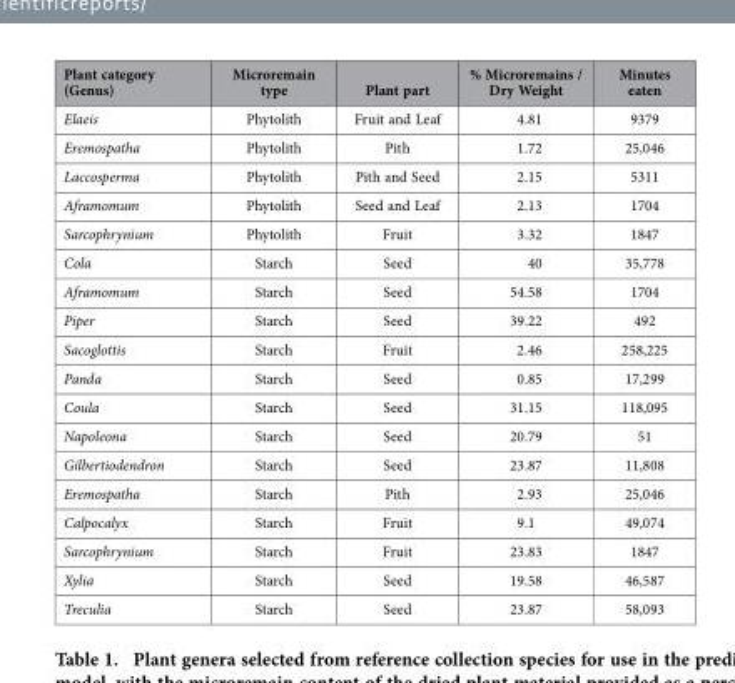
<table><thead><tr><td>Plant category (Genus)</td><td>Microremain type</td><td>Plant part</td><td>% Microremains / Dry Weight</td><td>Minutes eaten</td></tr></thead><tbody><tr><td>Elaeis</td><td>Phytolith</td><td>Fruit and Leaf</td><td>4.81</td><td>9379</td></tr><tr><td>Eremospatha</td><td>Phytolith</td><td>Pith</td><td>1.72</td><td>25,046</td></tr><tr><td>Laccosperma</td><td>Phytolith</td><td>Pith and Seed</td><td>2.15</td><td>5311</td></tr><tr><td>Aframomum</td><td>Phytolith</td><td>Seed and Leaf</td><td>2.13</td><td>1704</td></tr><tr><td>Sarcophrynium</td><td>Phytolith</td><td>Fruit</td><td>3.32</td><td>1847</td></tr><tr><td>Cola</td><td>Starch</td><td>Seed</td><td>40</td><td>35,778</td></tr><tr><td>Aframomum</td><td>Starch</td><td>Seed</td><td>54.58</td><td>1704</td></tr><tr><td>Piper</td><td>Starch</td><td>Seed</td><td>39.22</td><td>492</td></tr><tr><td>Sacoglottis</td><td>Starch</td><td>Fruit</td><td>2.46</td><td>258,225</td></tr><tr><td>Panda</td><td>Starch</td><td>Seed</td><td>0.85</td><td>17,299</td></tr><tr><td>Coula</td><td>Starch</td><td>Seed</td><td>31.15</td><td>118,095</td></tr><tr><td>Napoleona</td><td>Starch</td><td>Seed</td><td>20.79</td><td>51</td></tr><tr><td>Gilbertiodendron</td><td>Starch</td><td>Seed</td><td>23.87</td><td>11,808</td></tr><tr><td>Eremospatha</td><td>Starch</td><td>Pith</td><td>2.93</td><td>25,046</td></tr><tr><td>Calpocalyx</td><td>Starch</td><td>Fruit</td><td>9.1</td><td>49,074</td></tr><tr><td>Sarcophrynium</td><td>Starch</td><td>Fruit</td><td>23.83</td><td>1847</td></tr><tr><td>Xylia</td><td>Starch</td><td>Seed</td><td>19.58</td><td>46,587</td></tr><tr><td>Treculia</td><td>Starch</td><td>Seed</td><td>23.87</td><td>58,093</td></tr></tbody></table>